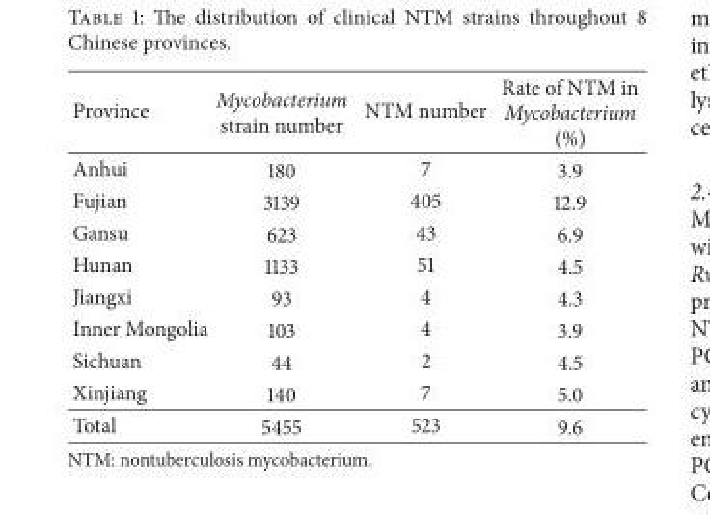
<table><thead><tr><td>Province</td><td>Mycobacterium strain number</td><td>NTM number</td><td>Rate of NTM in Mycobacterium (%)</td></tr></thead><tbody><tr><td>Anhui</td><td>180</td><td>7</td><td>3.9</td></tr><tr><td>Fujian</td><td>3139</td><td>405</td><td>12.9</td></tr><tr><td>Gansu</td><td>623</td><td>43</td><td>6.9</td></tr><tr><td>Hunan</td><td>1133</td><td>51</td><td>4.5</td></tr><tr><td>Jiangxi</td><td>93</td><td>4</td><td>4.3</td></tr><tr><td>Inner Mongolia</td><td>103</td><td>4</td><td>3.9</td></tr><tr><td>Sichuan</td><td>44</td><td>2</td><td>4.5</td></tr><tr><td>Xinjiang</td><td>140</td><td>7</td><td>5.0</td></tr><tr><td>Total</td><td>5455</td><td>523</td><td>9.6</td></tr></tbody></table>